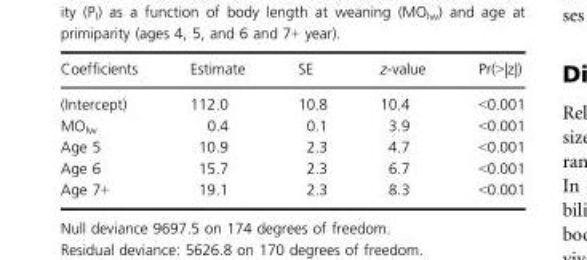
<table><thead><tr><td>Coefficients</td><td>Estimate</td><td>SE</td><td>z-value</td><td>Pr(&gt;|z|)</td></tr></thead><tbody><tr><td>(Intercept)</td><td>112.0</td><td>10.8</td><td>10.4</td><td>&lt;0.001</td></tr><tr><td>MO<sub>lw</sub></td><td>0.4</td><td>0.1</td><td>3.9</td><td>&lt;0.001</td></tr><tr><td>Age 5</td><td>10.9</td><td>2.3</td><td>4.7</td><td>&lt;0.001</td></tr><tr><td>Age 6</td><td>15.7</td><td>2.3</td><td>6.7</td><td>&lt;0.001</td></tr><tr><td>Age 7+</td><td>19.1</td><td>2.3</td><td>8.3</td><td>&lt;0.001</td></tr></tbody></table>